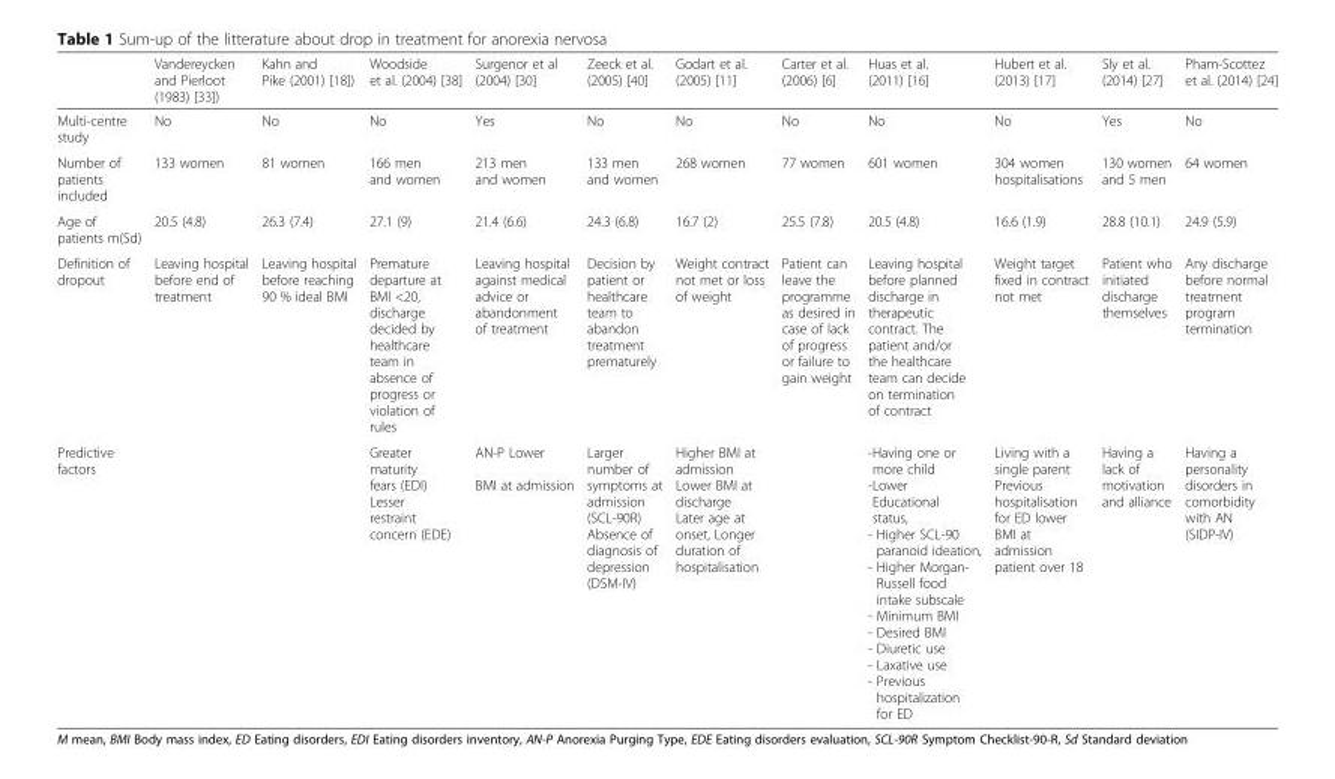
<table><thead><tr><td></td><td>Vandereycken and Pierloot (1983) [33])</td><td>Kahn and Pike (2001) [18])</td><td>Woodside et al. (2004) [38]</td><td>Surgenor et al (2004) [30]</td><td>Zeeck et al. (2005) [40]</td><td>Godart et al. (2005) [11]</td><td>Carter et al. (2006) [6]</td><td>Huas et al. (2011) [16]</td><td>Hubert et al. (2013) [17]</td><td>Sly et al. (2014) [27]</td><td>Pham-Scottez et al. (2014) [24]</td></tr></thead><tbody><tr><td>Multi-centre study</td><td>No</td><td>No</td><td>No</td><td>Yes</td><td>No</td><td>No</td><td>No</td><td>No</td><td>No</td><td>Yes</td><td>No</td></tr><tr><td>Number of patients included</td><td>133 women</td><td>81 women</td><td>166 men and women</td><td>213 men and women</td><td>133 men and women</td><td>268 women</td><td>77 women</td><td>601 women</td><td>304 women hospitalisations</td><td>130 women and 5 men</td><td>64 women</td></tr><tr><td>Age of patients m(Sd)</td><td>20.5 (4.8)</td><td>26.3 (7.4)</td><td>27.1 (9)</td><td>21.4 (6.6)</td><td>24.3 (6.8)</td><td>16.7 (2)</td><td>25.5 (7.8)</td><td>20.5 (4.8)</td><td>16.6 (1.9)</td><td>28.8 (10.1)</td><td>24.9 (5.9)</td></tr><tr><td>Definition of dropout</td><td>Leaving hospital before end of treatment</td><td>Leaving hospital before reaching 90 % ideal BMI</td><td>Premature departure at BMI &lt;20, discharge decided by healthcare team in absence of progress or violation of rules</td><td>Leaving hospital against medical advice or abandonment of treatment</td><td>Decision by patient or healthcare team to abandon treatment prematurely</td><td>Weight contract not met or loss of weight</td><td>Patient can leave the programme as desired in case of lack of progress or failure to gain weight</td><td>Leaving hospital before planned discharge in therapeutic contract. The patient and/or the healthcare team can decide on termination of contract</td><td>Weight target fixed in contract not met</td><td>Patient who initiated discharge themselves</td><td>Any discharge before normal treatment program termination</td></tr><tr><td>Predictive factors</td><td></td><td></td><td>Greater maturity fears (EDI) Lesser restraint concern (EDE)</td><td>AN-P Lower BMI at admission</td><td>Larger number of symptoms at admission (SCL-90R) Absence of diagnosis of depression (DSM-IV)</td><td>Higher BMI at admission Lower BMI at discharge Later age at onset, Longer duration of hospitalisation</td><td></td><td>-Having one or more child -Lower Educational status, - Higher SCL-90 paranoid ideation, - Higher Morgan- Russell food intake subscale - Minimum BMI - Desired BMI - Diuretic use - Laxative use - Previous hospitalization for ED</td><td>Living with a single parent Previous hospitalisation for ED lower BMI at admission patient over 18</td><td>Having a lack of motivation and alliance</td><td>Having a personality disorders in comorbidity with AN (SIDP-IV)</td></tr></tbody></table>